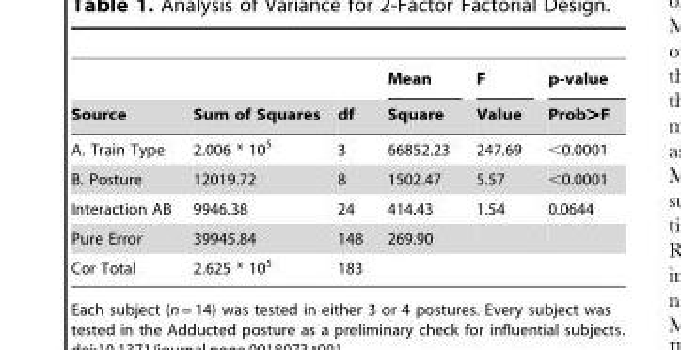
<table><thead><tr><td rowspan="2">Source</td><td rowspan="2">Sum of Squares</td><td rowspan="2">df</td><td rowspan="2">Mean Square</td><td rowspan="2">F Value</td><td rowspan="2">p-value Prob&gt;F</td></tr><tr></tr></thead><tbody><tr><td>A. Train Type</td><td>2.006 * 10<sup>5</sup></td><td>3</td><td>66852.23</td><td>247.69</td><td>&lt;0.0001</td></tr><tr><td>B. Posture</td><td>12019.72</td><td>8</td><td>1502.47</td><td>5.57</td><td>&lt;0.0001</td></tr><tr><td>Interaction AB</td><td>9946.38</td><td>24</td><td>414.43</td><td>1.54</td><td>0.0644</td></tr><tr><td>Pure Error</td><td>39945.84</td><td>148</td><td>269.90</td><td></td><td></td></tr><tr><td>Cor Total</td><td>2.625 * 10<sup>5</sup></td><td>183</td><td></td><td></td><td></td></tr></tbody></table>